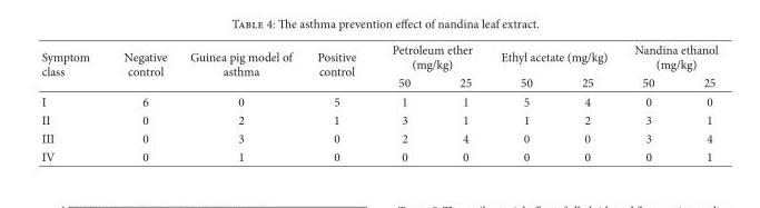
<table><thead><tr><td rowspan="2">Symptom class</td><td rowspan="2">Negative control</td><td rowspan="2">Guinea pig model of asthma</td><td rowspan="2">Positive control</td><td colspan="2">Petroleum ether (mg/kg)</td><td colspan="2">Ethyl acetate (mg/kg)</td><td colspan="2">Nandina ethanol (mg/kg)</td></tr><tr><td>50</td><td>25</td><td>50</td><td>25</td><td>50</td><td>25</td></tr></thead><tbody><tr><td>I</td><td>6</td><td>0</td><td>5</td><td>1</td><td>1</td><td>5</td><td>4</td><td>0</td><td>0</td></tr><tr><td>II</td><td>0</td><td>2</td><td>1</td><td>3</td><td>1</td><td>1</td><td>2</td><td>3</td><td>1</td></tr><tr><td>III</td><td>0</td><td>3</td><td>0</td><td>2</td><td>4</td><td>0</td><td>0</td><td>3</td><td>4</td></tr><tr><td>IV</td><td>0</td><td>1</td><td>0</td><td>0</td><td>0</td><td>0</td><td>0</td><td>0</td><td>1</td></tr></tbody></table>